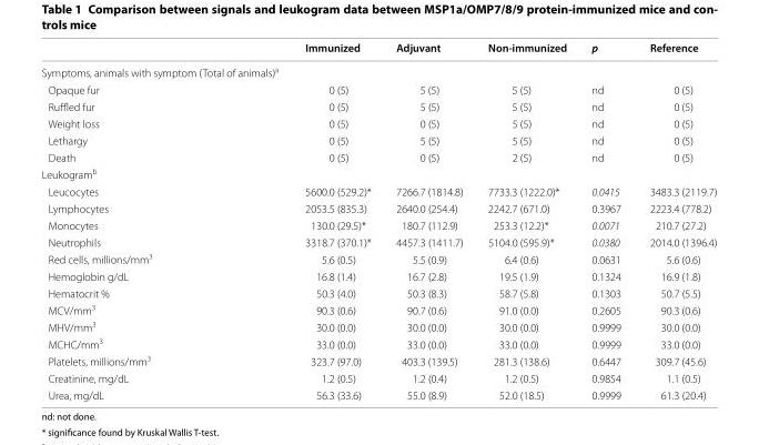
<table><thead><tr><td></td><td>Immunized</td><td>Adjuvant</td><td>Non-immunized</td><td>p</td><td>Reference</td></tr></thead><tbody><tr><td colspan="6">Symptoms, animals with symptom (Total of animals)<sup>a</sup></td></tr><tr><td>Opaque fur</td><td>0 (5)</td><td>5 (5)</td><td>5 (5)</td><td>nd</td><td>0 (5)</td></tr><tr><td>Ruffled fur</td><td>0 (5)</td><td>5 (5)</td><td>5 (5)</td><td>nd</td><td>0 (5)</td></tr><tr><td>Weight loss</td><td>0 (5)</td><td>0 (5)</td><td>5 (5)</td><td>nd</td><td>0 (5)</td></tr><tr><td>Lethargy</td><td>0 (5)</td><td>5 (5)</td><td>5 (5)</td><td>nd</td><td>0 (5)</td></tr><tr><td>Death</td><td>0 (5)</td><td>0 (5)</td><td>2 (5)</td><td>nd</td><td>0 (5)</td></tr><tr><td colspan="6">Leukogram<sup>b</sup></td></tr><tr><td>Leucocytes</td><td>5600.0 (529.2)*</td><td>7266.7 (1814.8)</td><td>7733.3 (1222.0)*</td><td>0.0415</td><td>3483.3 (2119.7)</td></tr><tr><td>Lymphocytes</td><td>2053.5 (835.3)</td><td>2640.0 (254.4)</td><td>2242.7 (671.0)</td><td>0.3967</td><td>2223.4 (778.2)</td></tr><tr><td>Monocytes</td><td>130.0 (29.5)*</td><td>180.7 (112.9)</td><td>253.3 (12.2)*</td><td>0.0071</td><td>210.7 (27.2)</td></tr><tr><td>Neutrophils</td><td>3318.7 (370.1)*</td><td>4457.3 (1411.7)</td><td>5104.0 (595.9)*</td><td>0.0380</td><td>2014.0 (1396.4)</td></tr><tr><td>Red cells, millions/mm<sup>3</sup></td><td>5.6 (0.5)</td><td>5.5 (0.9)</td><td>6.4 (0.6)</td><td>0.0631</td><td>5.6 (0.6)</td></tr><tr><td>Hemoglobin g/dL</td><td>16.8 (1.4)</td><td>16.7 (2.8)</td><td>19.5 (1.9)</td><td>0.1324</td><td>16.9 (1.8)</td></tr><tr><td>Hematocrit %</td><td>50.3 (4.0)</td><td>50.3 (8.3)</td><td>58.7 (5.8)</td><td>0.1303</td><td>50.7 (5.5)</td></tr><tr><td>MCV/mm<sup>3</sup></td><td>90.3 (0.6)</td><td>90.7 (0.6)</td><td>91.0 (0.0)</td><td>0.2605</td><td>90.3 (0.6)</td></tr><tr><td>MHV/mm<sup>3</sup></td><td>30.0 (0.0)</td><td>30.0 (0.0)</td><td>30.0 (0.0)</td><td>0.9999</td><td>30.0 (0.0)</td></tr><tr><td>MCHC/mm<sup>3</sup></td><td>33.0 (0.0)</td><td>33.0 (0.0)</td><td>33.0 (0.0)</td><td>0.9999</td><td>33.0 (0.0)</td></tr><tr><td>Platelets, millions/mm<sup>3</sup></td><td>323.7 (97.0)</td><td>403.3 (139.5)</td><td>281.3 (138.6)</td><td>0.6447</td><td>309.7 (45.6)</td></tr><tr><td>Creatinine, mg/dL</td><td>1.2 (0.5)</td><td>1.2 (0.4)</td><td>1.2 (0.5)</td><td>0.9854</td><td>1.1 (0.5)</td></tr><tr><td>Urea, mg/dL</td><td>56.3 (33.6)</td><td>55.0 (8.9)</td><td>52.0 (18.5)</td><td>0.9999</td><td>61.3 (20.4)</td></tr></tbody></table>